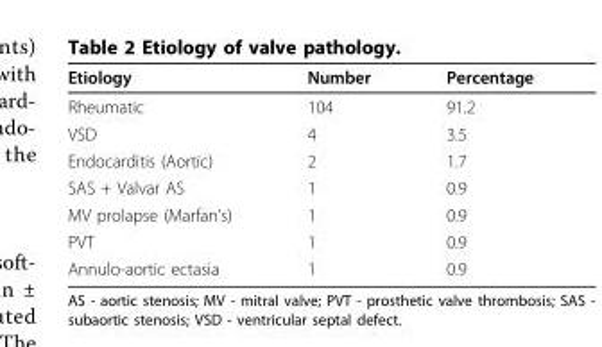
<table><thead><tr><td>Etiology</td><td>Number</td><td>Percentage</td></tr></thead><tbody><tr><td>Rheumatic</td><td>104</td><td>91.2</td></tr><tr><td>VSD</td><td>4</td><td>3.5</td></tr><tr><td>Endocarditis (Aortic)</td><td>2</td><td>1.7</td></tr><tr><td>SAS + Valvar AS</td><td>1</td><td>0.9</td></tr><tr><td>MV prolapse (Marfan’s)</td><td>1</td><td>0.9</td></tr><tr><td>PVT</td><td>1</td><td>0.9</td></tr><tr><td>Annulo-aortic ectasia</td><td>1</td><td>0.9</td></tr></tbody></table>